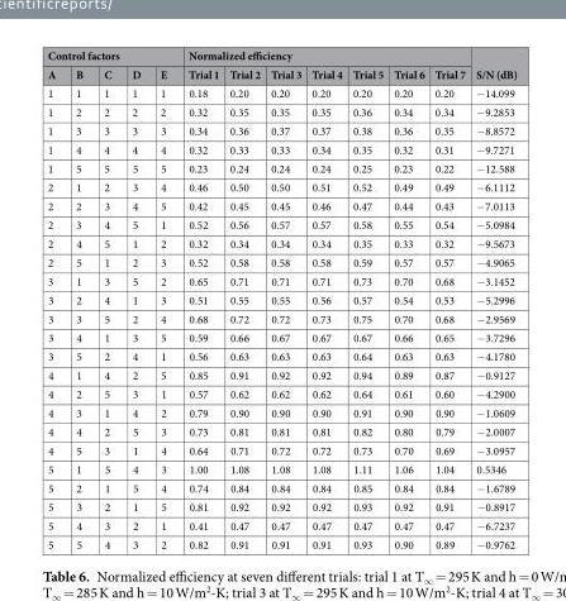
<table><thead><tr><td colspan="5">Control factors</td><td colspan="7">Normalized efficiency</td><td rowspan="2">S/N (dB)</td></tr><tr><td>A</td><td>B</td><td>C</td><td>D</td><td>E</td><td>Trial 1</td><td>Trial 2</td><td>Trial 3</td><td>Trial 4</td><td>Trial 5</td><td>Trial 6</td><td>Trial 7</td></tr></thead><tbody><tr><td>1</td><td>1</td><td>1</td><td>1</td><td>1</td><td>0.18</td><td>0.20</td><td>0.20</td><td>0.20</td><td>0.20</td><td>0.20</td><td>0.20</td><td>−14.099</td></tr><tr><td>1</td><td>2</td><td>2</td><td>2</td><td>2</td><td>0.32</td><td>0.35</td><td>0.35</td><td>0.35</td><td>0.36</td><td>0.34</td><td>0.34</td><td>−9.2853</td></tr><tr><td>1</td><td>3</td><td>3</td><td>3</td><td>3</td><td>0.34</td><td>0.36</td><td>0.37</td><td>0.37</td><td>0.38</td><td>0.36</td><td>0.35</td><td>−8.8572</td></tr><tr><td>1</td><td>4</td><td>4</td><td>4</td><td>4</td><td>0.32</td><td>0.33</td><td>0.33</td><td>0.34</td><td>0.35</td><td>0.32</td><td>0.31</td><td>−9.7271</td></tr><tr><td>1</td><td>5</td><td>5</td><td>5</td><td>5</td><td>0.23</td><td>0.24</td><td>0.24</td><td>0.24</td><td>0.25</td><td>0.23</td><td>0.22</td><td>−12.588</td></tr><tr><td>2</td><td>1</td><td>2</td><td>3</td><td>4</td><td>0.46</td><td>0.50</td><td>0.50</td><td>0.51</td><td>0.52</td><td>0.49</td><td>0.49</td><td>−6.1112</td></tr><tr><td>2</td><td>2</td><td>3</td><td>4</td><td>5</td><td>0.42</td><td>0.45</td><td>0.45</td><td>0.46</td><td>0.47</td><td>0.44</td><td>0.43</td><td>−7.0113</td></tr><tr><td>2</td><td>3</td><td>4</td><td>5</td><td>1</td><td>0.52</td><td>0.56</td><td>0.57</td><td>0.57</td><td>0.58</td><td>0.55</td><td>0.54</td><td>−5.0984</td></tr><tr><td>2</td><td>4</td><td>5</td><td>1</td><td>2</td><td>0.32</td><td>0.34</td><td>0.34</td><td>0.34</td><td>0.35</td><td>0.33</td><td>0.32</td><td>−9.5673</td></tr><tr><td>2</td><td>5</td><td>1</td><td>2</td><td>3</td><td>0.52</td><td>0.58</td><td>0.58</td><td>0.58</td><td>0.59</td><td>0.57</td><td>0.57</td><td>−4.9065</td></tr><tr><td>3</td><td>1</td><td>3</td><td>5</td><td>2</td><td>0.65</td><td>0.71</td><td>0.71</td><td>0.71</td><td>0.73</td><td>0.70</td><td>0.68</td><td>−3.1452</td></tr><tr><td>3</td><td>2</td><td>4</td><td>1</td><td>3</td><td>0.51</td><td>0.55</td><td>0.55</td><td>0.56</td><td>0.57</td><td>0.54</td><td>0.53</td><td>−5.2996</td></tr><tr><td>3</td><td>3</td><td>5</td><td>2</td><td>4</td><td>0.68</td><td>0.72</td><td>0.72</td><td>0.73</td><td>0.75</td><td>0.70</td><td>0.68</td><td>−2.9569</td></tr><tr><td>3</td><td>4</td><td>1</td><td>3</td><td>5</td><td>0.59</td><td>0.66</td><td>0.67</td><td>0.67</td><td>0.67</td><td>0.66</td><td>0.65</td><td>−3.7296</td></tr><tr><td>3</td><td>5</td><td>2</td><td>4</td><td>1</td><td>0.56</td><td>0.63</td><td>0.63</td><td>0.63</td><td>0.64</td><td>0.63</td><td>0.63</td><td>−4.1780</td></tr><tr><td>4</td><td>1</td><td>4</td><td>2</td><td>5</td><td>0.85</td><td>0.91</td><td>0.92</td><td>0.92</td><td>0.94</td><td>0.89</td><td>0.87</td><td>−0.9127</td></tr><tr><td>4</td><td>2</td><td>5</td><td>3</td><td>1</td><td>0.57</td><td>0.62</td><td>0.62</td><td>0.62</td><td>0.64</td><td>0.61</td><td>0.60</td><td>−4.2900</td></tr><tr><td>4</td><td>3</td><td>1</td><td>4</td><td>2</td><td>0.79</td><td>0.90</td><td>0.90</td><td>0.90</td><td>0.91</td><td>0.90</td><td>0.90</td><td>−1.0609</td></tr><tr><td>4</td><td>4</td><td>2</td><td>5</td><td>3</td><td>0.73</td><td>0.81</td><td>0.81</td><td>0.81</td><td>0.82</td><td>0.80</td><td>0.79</td><td>−2.0007</td></tr><tr><td>4</td><td>5</td><td>3</td><td>1</td><td>4</td><td>0.64</td><td>0.71</td><td>0.72</td><td>0.72</td><td>0.73</td><td>0.70</td><td>0.69</td><td>−3.0957</td></tr><tr><td>5</td><td>1</td><td>5</td><td>4</td><td>3</td><td>1.00</td><td>1.08</td><td>1.08</td><td>1.08</td><td>1.11</td><td>1.06</td><td>1.04</td><td>0.5346</td></tr><tr><td>5</td><td>2</td><td>1</td><td>5</td><td>4</td><td>0.74</td><td>0.84</td><td>0.84</td><td>0.84</td><td>0.85</td><td>0.84</td><td>0.84</td><td>−1.6789</td></tr><tr><td>5</td><td>3</td><td>2</td><td>1</td><td>5</td><td>0.81</td><td>0.92</td><td>0.92</td><td>0.92</td><td>0.93</td><td>0.92</td><td>0.91</td><td>−0.8917</td></tr><tr><td>5</td><td>4</td><td>3</td><td>2</td><td>1</td><td>0.41</td><td>0.47</td><td>0.47</td><td>0.47</td><td>0.47</td><td>0.47</td><td>0.47</td><td>−6.7237</td></tr><tr><td>5</td><td>5</td><td>4</td><td>3</td><td>2</td><td>0.82</td><td>0.91</td><td>0.91</td><td>0.91</td><td>0.93</td><td>0.90</td><td>0.89</td><td>−0.9762</td></tr></tbody></table>